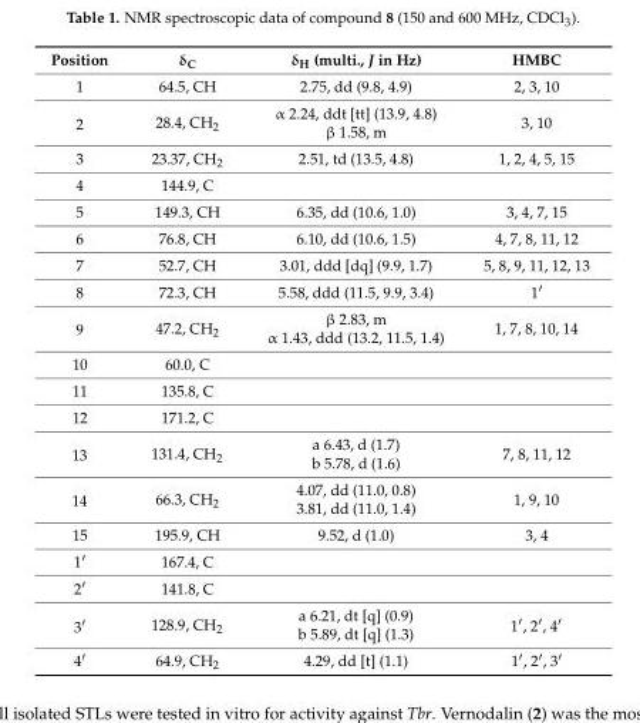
<table><thead><tr><td>Position</td><td>δ<sub>C</sub></td><td>δ<sub>H</sub> (multi., J in Hz)</td><td>HMBC</td></tr></thead><tbody><tr><td>1</td><td>64.5, CH</td><td>2.75, dd (9.8, 4.9)</td><td>2, 3, 10</td></tr><tr><td rowspan="2">2</td><td rowspan="2">28.4, CH<sub>2</sub></td><td>α 2.24, ddt [tt] (13.9, 4.8)</td><td rowspan="2">3, 10</td></tr><tr><td>β 1.58, m</td></tr><tr><td>3</td><td>23.37, CH<sub>2</sub></td><td>2.51, td (13.5, 4.8)</td><td>1, 2, 4, 5, 15</td></tr><tr><td>4</td><td>144.9, C</td><td></td><td></td></tr><tr><td>5</td><td>149.3, CH</td><td>6.35, dd (10.6, 1.0)</td><td>3, 4, 7, 15</td></tr><tr><td>6</td><td>76.8, CH</td><td>6.10, dd (10.6, 1.5)</td><td>4, 7, 8, 11, 12</td></tr><tr><td>7</td><td>52.7, CH</td><td>3.01, ddd [dq] (9.9, 1.7)</td><td>5, 8, 9, 11, 12, 13</td></tr><tr><td>8</td><td>72.3, CH</td><td>5.58, ddd (11.5, 9.9, 3.4)</td><td>1′</td></tr><tr><td rowspan="2">9</td><td rowspan="2">47.2, CH<sub>2</sub></td><td>β 2.83, m</td><td rowspan="2">1, 7, 8, 10, 14</td></tr><tr><td>α 1.43, ddd (13.2, 11.5, 1.4)</td></tr><tr><td>10</td><td>60.0, C</td><td></td><td></td></tr><tr><td>11</td><td>135.8, C</td><td></td><td></td></tr><tr><td>12</td><td>171.2, C</td><td></td><td></td></tr><tr><td rowspan="2">13</td><td rowspan="2">131.4, CH<sub>2</sub></td><td>a 6.43, d (1.7)</td><td rowspan="2">7, 8, 11, 12</td></tr><tr><td>b 5.78, d (1.6)</td></tr><tr><td rowspan="2">14</td><td rowspan="2">66.3, CH<sub>2</sub></td><td>4.07, dd (11.0, 0.8)</td><td rowspan="2">1, 9, 10</td></tr><tr><td>3.81, dd (11.0, 1.4)</td></tr><tr><td>15</td><td>195.9, CH</td><td>9.52, d (1.0)</td><td>3, 4</td></tr><tr><td>1′</td><td>167.4, C</td><td></td><td></td></tr><tr><td>2′</td><td>141.8, C</td><td></td><td></td></tr><tr><td rowspan="2">3′</td><td rowspan="2">128.9, CH<sub>2</sub></td><td>a 6.21, dt [q] (0.9)</td><td rowspan="2">1′, 2′, 4′</td></tr><tr><td>b 5.89, dt [q] (1.3)</td></tr><tr><td>4′</td><td>64.9, CH<sub>2</sub></td><td>4.29, dd [t] (1.1)</td><td>1′, 2′, 3′</td></tr></tbody></table>